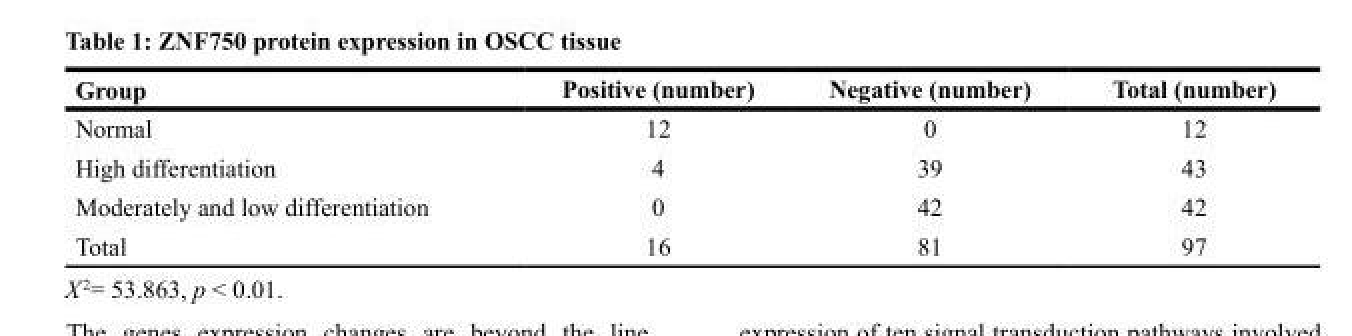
<table><thead><tr><td>Group</td><td>Positive (number)</td><td>Negative (number)</td><td>Total (number)</td></tr></thead><tbody><tr><td>Normal</td><td>12</td><td>0</td><td>12</td></tr><tr><td>High differentiation</td><td>4</td><td>39</td><td>43</td></tr><tr><td>Moderately and low differentiation</td><td>0</td><td>42</td><td>42</td></tr><tr><td>Total</td><td>16</td><td>81</td><td>97</td></tr></tbody></table>